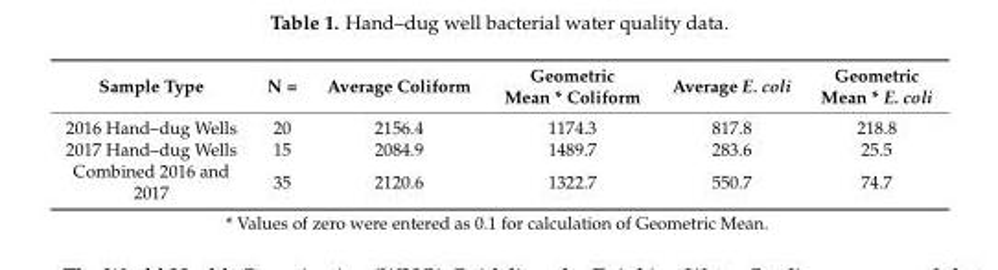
<table><thead><tr><td>Sample Type</td><td>N =</td><td>Average Coliform</td><td>Geometric Mean * Coliform</td><td>Average E. coli</td><td>Geometric Mean * E. coli</td></tr></thead><tbody><tr><td>2016 Hand–dug Wells</td><td>20</td><td>2156.4</td><td>1174.3</td><td>817.8</td><td>218.8</td></tr><tr><td>2017 Hand–dug Wells</td><td>15</td><td>2084.9</td><td>1489.7</td><td>283.6</td><td>25.5</td></tr><tr><td>Combined 2016 and 2017</td><td>35</td><td>2120.6</td><td>1322.7</td><td>550.7</td><td>74.7</td></tr></tbody></table>